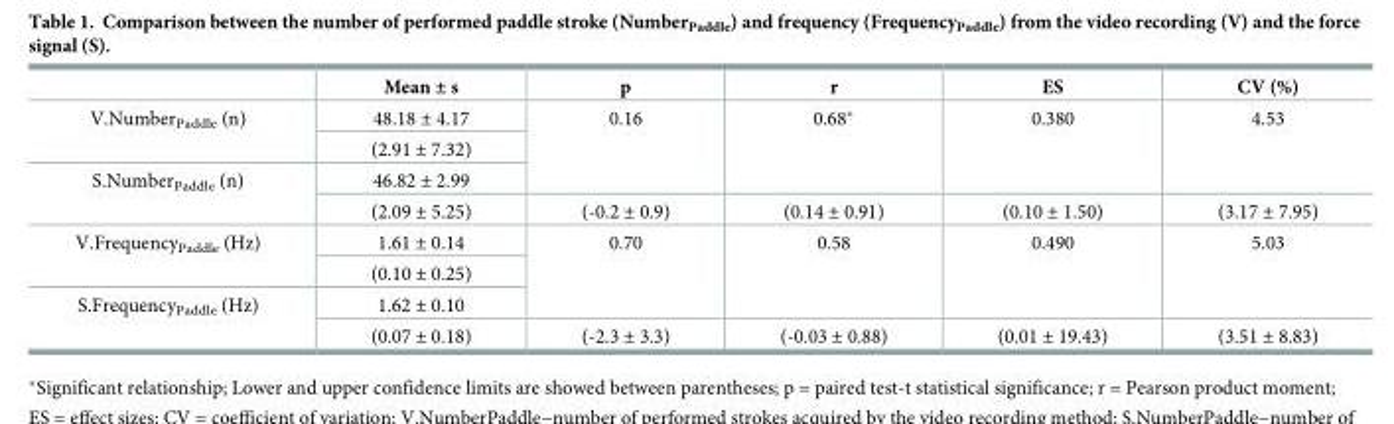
<table><thead><tr><td></td><td>Mean ± s</td><td>p</td><td>r</td><td>ES</td><td>CV (%)</td></tr></thead><tbody><tr><td rowspan="2">V.Number<sub>Paddle</sub> (n)</td><td>48.18 ± 4.17</td><td rowspan="3">0.16</td><td rowspan="3">0.68*</td><td rowspan="3">0.380</td><td rowspan="3">4.53</td></tr><tr><td>(2.91 ± 7.32)</td></tr><tr><td rowspan="2">S.Number<sub>Paddle</sub> (n)</td><td>46.82 ± 2.99</td></tr><tr><td>(2.09 ± 5.25)</td><td>(-0.2 ± 0.9)</td><td>(0.14 ± 0.91)</td><td>(0.10 ± 1.50)</td><td>(3.17 ± 7.95)</td></tr><tr><td rowspan="2">V.Frequency<sub>Paddle</sub> (Hz)</td><td>1.61 ± 0.14</td><td rowspan="3">0.70</td><td rowspan="3">0.58</td><td rowspan="3">0.490</td><td rowspan="3">5.03</td></tr><tr><td>(0.10 ± 0.25)</td></tr><tr><td rowspan="2">S.Frequency<sub>Paddle</sub> (Hz)</td><td>1.62 ± 0.10</td></tr><tr><td>(0.07 ± 0.18)</td><td>(-2.3 ± 3.3)</td><td>(-0.03 ± 0.88)</td><td>(0.01 ± 19.43)</td><td>(3.51 ± 8.83)</td></tr></tbody></table>